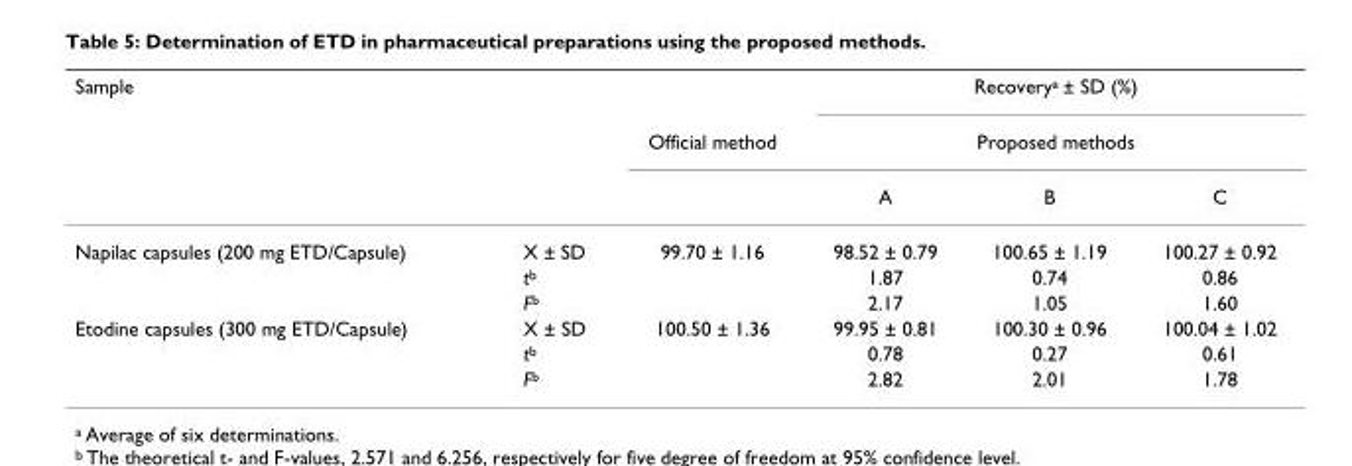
<table><thead><tr><td rowspan="3">Sample</td><td rowspan="3"></td><td rowspan="3">Official method</td><td rowspan="2" colspan="3">Recovery<sup>a</sup> ± SD (%) Proposed methods</td></tr><tr></tr><tr><td>A</td><td>B</td><td>C</td></tr></thead><tbody><tr><td rowspan="3">Napilac capsules (200 mg ETD/Capsule)</td><td>X ± SD</td><td>99.70 ± 1.16</td><td>98.52 ± 0.79</td><td>100.65 ± 1.19</td><td>100.27 ± 0.92</td></tr><tr><td>t<sup>b</sup></td><td></td><td>1.87</td><td>0.74</td><td>0.86</td></tr><tr><td>F<sup>b</sup></td><td></td><td>2.17</td><td>1.05</td><td>1.60</td></tr><tr><td rowspan="3">Etodine capsules (300 mg ETD/Capsule)</td><td>X ± SD</td><td>100.50 ± 1.36</td><td>99.95 ± 0.81</td><td>100.30 ± 0.96</td><td>100.04 ± 1.02</td></tr><tr><td>t<sup>b</sup></td><td></td><td>0.78</td><td>0.27</td><td>0.61</td></tr><tr><td>F<sup>b</sup></td><td></td><td>2.82</td><td>2.01</td><td>1.78</td></tr></tbody></table>